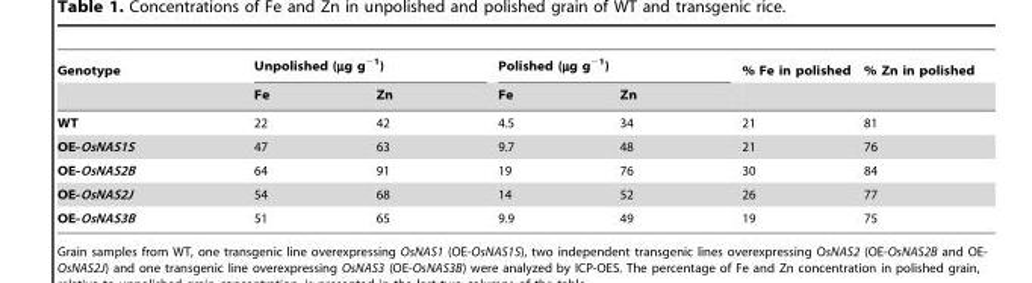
<table><thead><tr><td rowspan="2">Genotype</td><td colspan="2">Unpolished (µg g<sup>−1</sup>)</td><td colspan="2">Polished (µg g<sup>−1</sup>)</td><td rowspan="2">% Fe in polished</td><td rowspan="2">% Zn in polished</td></tr><tr><td>Fe</td><td>Zn</td><td>Fe</td><td>Zn</td></tr></thead><tbody><tr><td>WT</td><td>22</td><td>42</td><td>4.5</td><td>34</td><td>21</td><td>81</td></tr><tr><td>OE-OsNAS1S</td><td>47</td><td>63</td><td>9.7</td><td>48</td><td>21</td><td>76</td></tr><tr><td>OE-OsNAS2B</td><td>64</td><td>91</td><td>19</td><td>76</td><td>30</td><td>84</td></tr><tr><td>OE-OsNAS2J</td><td>54</td><td>68</td><td>14</td><td>52</td><td>26</td><td>77</td></tr><tr><td>OE-OsNAS3B</td><td>51</td><td>65</td><td>9.9</td><td>49</td><td>19</td><td>75</td></tr></tbody></table>